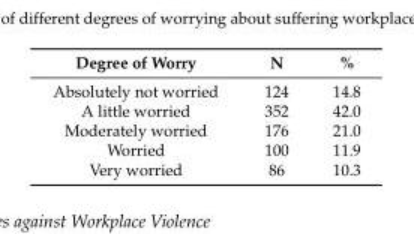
<table><thead><tr><td>Degree of Worry</td><td>N</td><td>%</td></tr></thead><tbody><tr><td>Absolutely not worried</td><td>124</td><td>14.8</td></tr><tr><td>A little worried</td><td>352</td><td>42.0</td></tr><tr><td>Moderately worried</td><td>176</td><td>21.0</td></tr><tr><td>Worried</td><td>100</td><td>11.9</td></tr><tr><td>Very worried</td><td>86</td><td>10.3</td></tr></tbody></table>